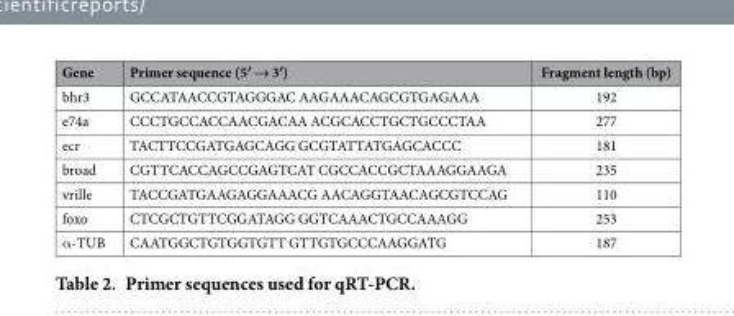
<table><thead><tr><td>Gene</td><td>Primer sequence (5′ → 3′)</td><td>Fragment length (bp)</td></tr></thead><tbody><tr><td>bhr3</td><td>GCCATAACCGTAGGGAC AAGAAACAGCGTGAGAAA</td><td>192</td></tr><tr><td>e74a</td><td>CCCTGCCACCAACGACAA ACGCACCTGCTGCCCTAA</td><td>277</td></tr><tr><td>ecr</td><td>TACTTCCGATGAGCAGG GCGTATTATGAGCACCC</td><td>181</td></tr><tr><td>broad</td><td>CGTTCACCAGCCGAGTCAT CGCCACCGCTAAAGGAAGA</td><td>235</td></tr><tr><td>vrille</td><td>TACCGATGAAGAGGAAACG AACAGGTAACAGCGTCCAG</td><td>110</td></tr><tr><td>foxo</td><td>CTCGCTGTTCGGATAGG GGTCAAACTGCCAAAGG</td><td>253</td></tr><tr><td>α -TUB</td><td>CAATGGCTGTGGTGTT GTTGTGCCCAAGGATG</td><td>187</td></tr></tbody></table>